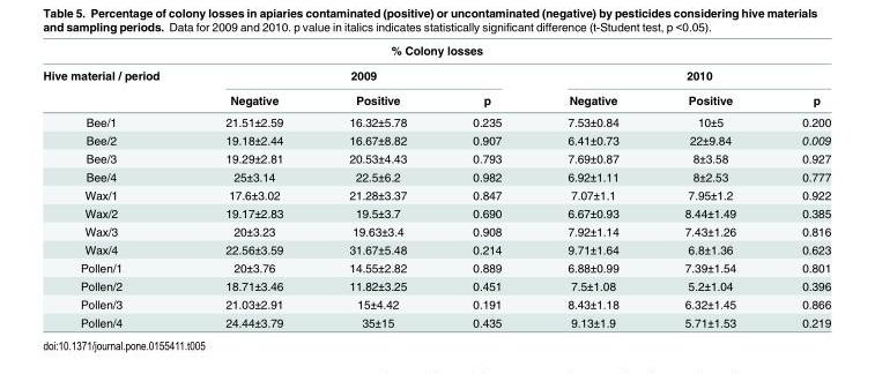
<table><thead><tr><td colspan="7">% Colony losses</td></tr><tr><td rowspan="2">Hive material / period</td><td colspan="3">2009</td><td colspan="3">2010</td></tr><tr><td>Negative</td><td>Positive</td><td>p</td><td>Negative</td><td>Positive</td><td>p</td></tr></thead><tbody><tr><td>Bee/1</td><td>21.51±2.59</td><td>16.32±5.78</td><td>0.235</td><td>7.53±0.84</td><td>10±5</td><td>0.200</td></tr><tr><td>Bee/2</td><td>19.18±2.44</td><td>16.67±8.82</td><td>0.907</td><td>6.41±0.73</td><td>22±9.84</td><td>0.009</td></tr><tr><td>Bee/3</td><td>19.29±2.81</td><td>20.53±4.43</td><td>0.793</td><td>7.69±0.87</td><td>8±3.58</td><td>0.927</td></tr><tr><td>Bee/4</td><td>25±3.14</td><td>22.5±6.2</td><td>0.982</td><td>6.92±1.11</td><td>8±2.53</td><td>0.777</td></tr><tr><td>Wax/1</td><td>17.6±3.02</td><td>21.28±3.37</td><td>0.847</td><td>7.07±1.1</td><td>7.95±1.2</td><td>0.922</td></tr><tr><td>Wax/2</td><td>19.17±2.83</td><td>19.5±3.7</td><td>0.690</td><td>6.67±0.93</td><td>8.44±1.49</td><td>0.385</td></tr><tr><td>Wax/3</td><td>20±3.23</td><td>19.63±3.4</td><td>0.908</td><td>7.92±1.14</td><td>7.43±1.26</td><td>0.816</td></tr><tr><td>Wax/4</td><td>22.56±3.59</td><td>31.67±5.48</td><td>0.214</td><td>9.71±1.64</td><td>6.8±1.36</td><td>0.623</td></tr><tr><td>Pollen/1</td><td>20±3.76</td><td>14.55±2.82</td><td>0.889</td><td>6.88±0.99</td><td>7.39±1.54</td><td>0.801</td></tr><tr><td>Pollen/2</td><td>18.71±3.46</td><td>11.82±3.25</td><td>0.451</td><td>7.5±1.08</td><td>5.2±1.04</td><td>0.396</td></tr><tr><td>Pollen/3</td><td>21.03±2.91</td><td>15±4.42</td><td>0.191</td><td>8.43±1.18</td><td>6.32±1.45</td><td>0.866</td></tr><tr><td>Pollen/4</td><td>24.44±3.79</td><td>35±15</td><td>0.435</td><td>9.13±1.9</td><td>5.71±1.53</td><td>0.219</td></tr></tbody></table>